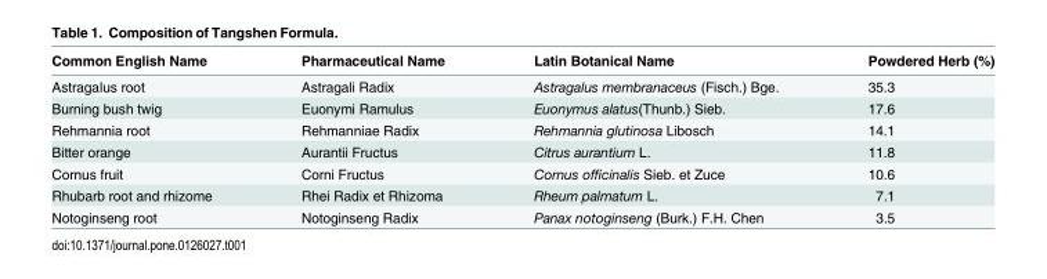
<table><thead><tr><td>Common English Name</td><td>Pharmaceutical Name</td><td>Latin Botanical Name</td><td>Powdered Herb (%)</td></tr></thead><tbody><tr><td>Astragalus root</td><td>Astragali Radix</td><td>Astragalus membranaceus (Fisch.) Bge.</td><td>35.3</td></tr><tr><td>Burning bush twig</td><td>Euonymi Ramulus</td><td>Euonymus alatus(Thunb.) Sieb.</td><td>17.6</td></tr><tr><td>Rehmannia root</td><td>Rehmanniae Radix</td><td>Rehmannia glutinosa Libosch</td><td>14.1</td></tr><tr><td>Bitter orange</td><td>Aurantii Fructus</td><td>Citrus aurantium L.</td><td>11.8</td></tr><tr><td>Cornus fruit</td><td>Corni Fructus</td><td>Cornus officinalis Sieb. et Zuce</td><td>10.6</td></tr><tr><td>Rhubarb root and rhizome</td><td>Rhei Radix et Rhizoma</td><td>Rheum palmatum L.</td><td>7.1</td></tr><tr><td>Notoginseng root</td><td>Notoginseng Radix</td><td>Panax notoginseng (Burk.) F.H. Chen</td><td>3.5</td></tr></tbody></table>